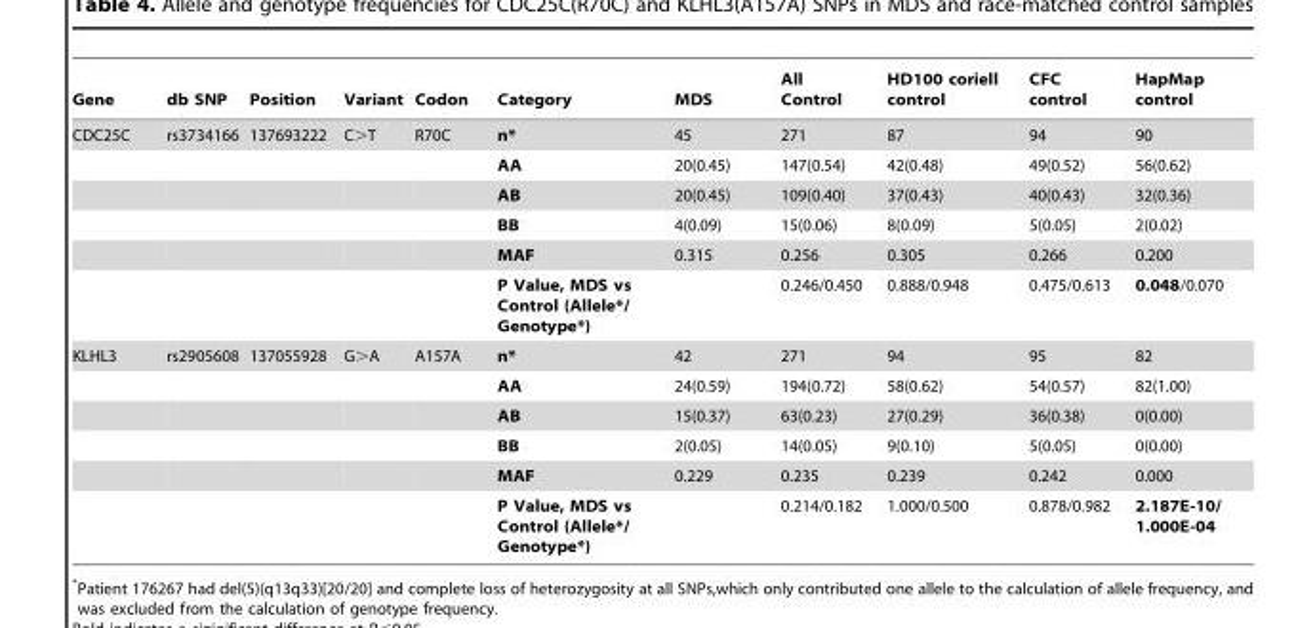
<table><thead><tr><td>Gene</td><td>db SNP</td><td>Position</td><td>Variant</td><td>Codon</td><td>Category</td><td>MDS</td><td>All Control</td><td>HD100 coriell control</td><td>CFC control</td><td>HapMap control</td></tr></thead><tbody><tr><td rowspan="6">CDC25C</td><td>rs3734166</td><td>137693222</td><td>C&gt;T</td><td>R70C</td><td>n*</td><td>45</td><td>271</td><td>87</td><td>94</td><td>90</td></tr><tr><td></td><td></td><td></td><td></td><td>AA</td><td>20(0.45)</td><td>147(0.54)</td><td>42(0.48)</td><td>49(0.52)</td><td>56(0.62)</td></tr><tr><td></td><td></td><td></td><td></td><td>AB</td><td>20(0.45)</td><td>109(0.40)</td><td>37(0.43)</td><td>40(0.43)</td><td>32(0.36)</td></tr><tr><td></td><td></td><td></td><td></td><td>BB</td><td>4(0.09)</td><td>15(0.06)</td><td>8(0.09)</td><td>5(0.05)</td><td>2(0.02)</td></tr><tr><td></td><td></td><td></td><td></td><td>MAF</td><td>0.315</td><td>0.256</td><td>0.305</td><td>0.266</td><td>0.200</td></tr><tr><td></td><td></td><td></td><td></td><td>P Value, MDS vs Control (Allele*/ Genotype*)</td><td></td><td>0.246/0.450</td><td>0.888/0.948</td><td>0.475/0.613</td><td>0.048/0.070</td></tr><tr><td rowspan="6">KLHL3</td><td>rs2905608</td><td>137055928</td><td>G&gt;A</td><td>A157A</td><td>n*</td><td>42</td><td>271</td><td>94</td><td>95</td><td>82</td></tr><tr><td></td><td></td><td></td><td></td><td>AA</td><td>24(0.59)</td><td>194(0.72)</td><td>58(0.62)</td><td>54(0.57)</td><td>82(1.00)</td></tr><tr><td></td><td></td><td></td><td></td><td>AB</td><td>15(0.37)</td><td>63(0.23)</td><td>27(0.29)</td><td>36(0.38)</td><td>0(0.00)</td></tr><tr><td></td><td></td><td></td><td></td><td>BB</td><td>2(0.05)</td><td>14(0.05)</td><td>9(0.10)</td><td>5(0.05)</td><td>0(0.00)</td></tr><tr><td></td><td></td><td></td><td></td><td>MAF</td><td>0.229</td><td>0.235</td><td>0.239</td><td>0.242</td><td>0.000</td></tr><tr><td></td><td></td><td></td><td></td><td>P Value, MDS vs Control (Allele*/ Genotype*)</td><td></td><td>0.214/0.182</td><td>1.000/0.500</td><td>0.878/0.982</td><td>2.187E-10/ 1.000E-04</td></tr></tbody></table>